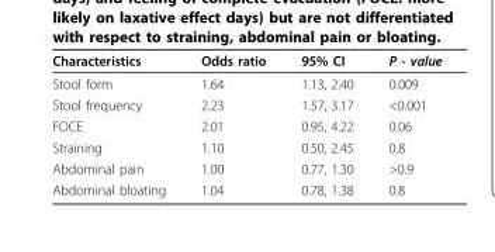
<table><thead><tr><td>Characteristics</td><td>Odds ratio</td><td>95% CI</td><td>P - value</td></tr></thead><tbody><tr><td>Stool form</td><td>1.64</td><td>1.13, 2.40</td><td>0.009</td></tr><tr><td>Stool frequency</td><td>2.23</td><td>1.57, 3.17</td><td>&lt;0.001</td></tr><tr><td>FOCE</td><td>2.01</td><td>0.95, 4.22</td><td>0.06</td></tr><tr><td>Straining</td><td>1.10</td><td>0.50, 2.45</td><td>0.8</td></tr><tr><td>Abdominal pain</td><td>1.00</td><td>0.77, 1.30</td><td>&gt;0.9</td></tr><tr><td>Abdominal bloating</td><td>1.04</td><td>0.78, 1.38</td><td>0.8</td></tr></tbody></table>